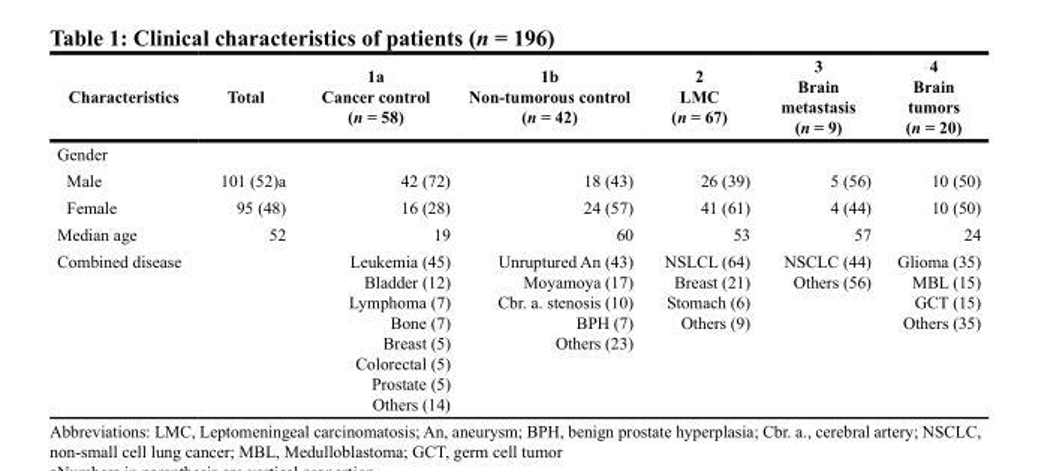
<table><thead><tr><td>Characteristics</td><td>Total</td><td>1a Cancer control (n = 58)</td><td>1b Non-tumorous control (n = 42)</td><td>2 LMC (n = 67)</td><td>3 Brain metastasis (n = 9)</td><td>4 Brain tumors (n = 20)</td></tr></thead><tbody><tr><td colspan="7">Gender</td></tr><tr><td>Male</td><td>101 (52)a</td><td>42 (72)</td><td>18 (43)</td><td>26 (39)</td><td>5 (56)</td><td>10 (50)</td></tr><tr><td>Female</td><td>95 (48)</td><td>16 (28)</td><td>24 (57)</td><td>41 (61)</td><td>4 (44)</td><td>10 (50)</td></tr><tr><td>Median age</td><td>52</td><td>19</td><td>60</td><td>53</td><td>57</td><td>24</td></tr><tr><td>Combined disease</td><td></td><td>Leukemia (45) Bladder (12) Lymphoma (7) Bone (7) Breast (5) Colorectal (5) Prostate (5) Others (14)</td><td>Unruptured An (43) Moyamoya (17) Cbr. a. stenosis (10) BPH (7) Others (23)</td><td>NSLCL (64) Breast (21) Stomach (6) Others (9)</td><td>NSCLC (44) Others (56)</td><td>Glioma (35) MBL (15) GCT (15) Others (35)</td></tr></tbody></table>